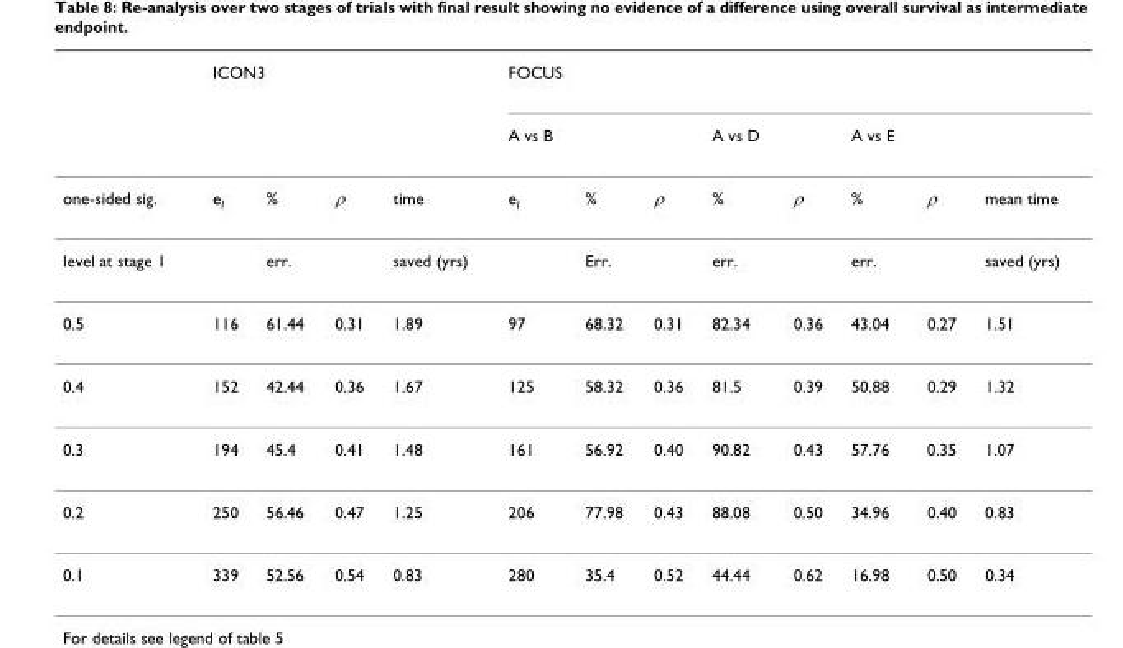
<table><thead><tr><td rowspan="2"></td><td colspan="4">ICON3</td><td colspan="8">FOCUS</td></tr><tr><td></td><td></td><td></td><td></td><td>A vs B</td><td></td><td></td><td>A vs D</td><td></td><td>A vs E</td><td></td><td></td></tr></thead><tbody><tr><td>one-sided sig.</td><td>e<sub>I</sub></td><td>%</td><td>ρ</td><td>time</td><td>e<sub>I</sub></td><td>%</td><td>ρ</td><td>%</td><td>ρ</td><td>%</td><td>ρ</td><td>mean time</td></tr><tr><td>level at stage 1</td><td></td><td>err.</td><td></td><td>saved (yrs)</td><td></td><td>Err.</td><td></td><td>err.</td><td></td><td>err.</td><td></td><td>saved (yrs)</td></tr><tr><td>0.5</td><td>116</td><td>61.44</td><td>0.31</td><td>1.89</td><td>97</td><td>68.32</td><td>0.31</td><td>82.34</td><td>0.36</td><td>43.04</td><td>0.27</td><td>1.51</td></tr><tr><td>0.4</td><td>152</td><td>42.44</td><td>0.36</td><td>1.67</td><td>125</td><td>58.32</td><td>0.36</td><td>81.5</td><td>0.39</td><td>50.88</td><td>0.29</td><td>1.32</td></tr><tr><td>0.3</td><td>194</td><td>45.4</td><td>0.41</td><td>1.48</td><td>161</td><td>56.92</td><td>0.40</td><td>90.82</td><td>0.43</td><td>57.76</td><td>0.35</td><td>1.07</td></tr><tr><td>0.2</td><td>250</td><td>56.46</td><td>0.47</td><td>1.25</td><td>206</td><td>77.98</td><td>0.43</td><td>88.08</td><td>0.50</td><td>34.96</td><td>0.40</td><td>0.83</td></tr><tr><td>0.1</td><td>339</td><td>52.56</td><td>0.54</td><td>0.83</td><td>280</td><td>35.4</td><td>0.52</td><td>44.44</td><td>0.62</td><td>16.98</td><td>0.50</td><td>0.34</td></tr></tbody></table>